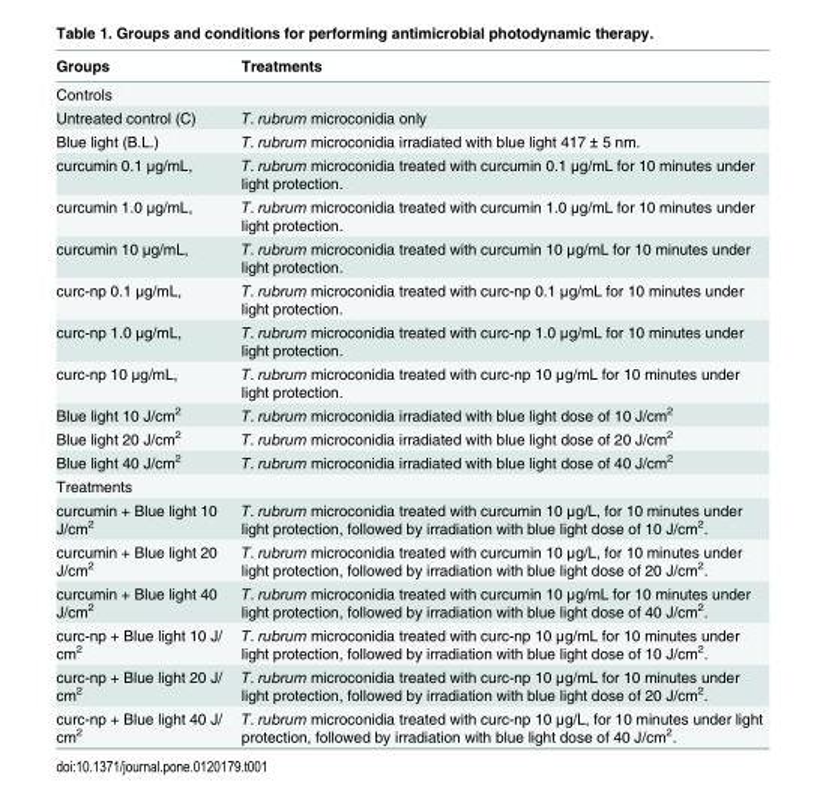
<table><thead><tr><td>Groups</td><td>Treatments</td></tr></thead><tbody><tr><td colspan="2">Controls</td></tr><tr><td>Untreated control (C)</td><td>T. rubrum microconidia only</td></tr><tr><td>Blue light (B.L.)</td><td>T. rubrum microconidia irradiated with blue light 417 ± 5 nm.</td></tr><tr><td>curcumin 0.1 μg/mL,</td><td>T. rubrum microconidia treated with curcumin 0.1 μg/mL for 10 minutes under light protection.</td></tr><tr><td>curcumin 1.0 μg/mL,</td><td>T. rubrum microconidia treated with curcumin 1.0 μg/mL for 10 minutes under light protection.</td></tr><tr><td>curcumin 10 μg/mL,</td><td>T. rubrum microconidia treated with curcumin 10 μg/mL for 10 minutes under light protection.</td></tr><tr><td>curc-np 0.1 μg/mL,</td><td>T. rubrum microconidia treated with curc-np 0.1 μg/mL for 10 minutes under light protection.</td></tr><tr><td>curc-np 1.0 μg/mL,</td><td>T. rubrum microconidia treated with curc-np 1.0 μg/mL for 10 minutes under light protection.</td></tr><tr><td>curc-np 10 μg/mL,</td><td>T. rubrum microconidia treated with curc-np 10 μg/mL for 10 minutes under light protection.</td></tr><tr><td>Blue light 10 J/cm<sup>2</sup></td><td>T. rubrum microconidia irradiated with blue light dose of 10 J/cm<sup>2</sup></td></tr><tr><td>Blue light 20 J/cm<sup>2</sup></td><td>T. rubrum microconidia irradiated with blue light dose of 20 J/cm<sup>2</sup></td></tr><tr><td>Blue light 40 J/cm<sup>2</sup></td><td>T. rubrum microconidia irradiated with blue light dose of 40 J/cm<sup>2</sup></td></tr><tr><td colspan="2">Treatments</td></tr><tr><td>curcumin + Blue light 10 J/cm<sup>2</sup></td><td>T. rubrum microconidia treated with curcumin 10 μg/L, for 10 minutes under light protection, followed by irradiation with blue light dose of 10 J/cm<sup>2</sup>.</td></tr><tr><td>curcumin + Blue light 20 J/cm<sup>2</sup></td><td>T. rubrum microconidia treated with curcumin 10 μg/L, for 10 minutes under light protection, followed by irradiation with blue light dose of 20 J/cm<sup>2</sup>.</td></tr><tr><td>curcumin + Blue light 40 J/cm<sup>2</sup></td><td>T. rubrum microconidia treated with curcumin 10 μg/mL for 10 minutes under light protection, followed by irradiation with blue light dose of 40 J/cm<sup>2</sup>.</td></tr><tr><td>curc-np + Blue light 10 J/ cm<sup>2</sup></td><td>T. rubrum microconidia treated with curc-np 10 μg/mL for 10 minutes under light protection, followed by irradiation with blue light dose of 10 J/cm<sup>2</sup>.</td></tr><tr><td>curc-np + Blue light 20 J/ cm<sup>2</sup></td><td>T. rubrum microconidia treated with curc-np 10 μg/mL for 10 minutes under light protection, followed by irradiation with blue light dose of 20 J/cm<sup>2</sup>.</td></tr><tr><td>curc-np + Blue light 40 J/ cm<sup>2</sup></td><td>T. rubrum microconidia treated with curc-np 10 μg/L, for 10 minutes under light protection, followed by irradiation with blue light dose of 40 J/cm<sup>2</sup>.</td></tr></tbody></table>